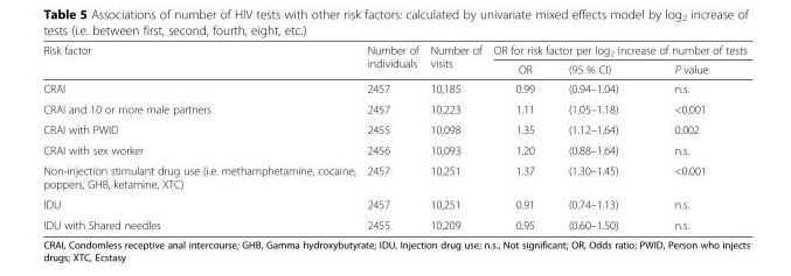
<table><thead><tr><td rowspan="2">Risk factor</td><td rowspan="2">Number of individuals</td><td rowspan="2">Number of visits</td><td colspan="3">OR for risk factor per log<sub>2</sub> increase of number of tests</td></tr><tr><td>OR</td><td>(95 % CI)</td><td>P value</td></tr></thead><tbody><tr><td>CRAI</td><td>2457</td><td>10,185</td><td>0.99</td><td>(0.94–1.04)</td><td>n.s.</td></tr><tr><td>CRAI and 10 or more male partners</td><td>2457</td><td>10,223</td><td>1.11</td><td>(1.05–1.18)</td><td>&lt;0.001</td></tr><tr><td>CRAI with PWID</td><td>2455</td><td>10,098</td><td>1.35</td><td>(1.12–1.64)</td><td>0.002</td></tr><tr><td>CRAI with sex worker</td><td>2456</td><td>10,093</td><td>1.20</td><td>(0.88–1.64)</td><td>n.s.</td></tr><tr><td>Non-injection stimulant drug use (i.e. methamphetamine, cocaine, poppers, GHB, ketamine, XTC)</td><td>2457</td><td>10,251</td><td>1.37</td><td>(1.30–1.45)</td><td>&lt;0.001</td></tr><tr><td>IDU</td><td>2457</td><td>10,251</td><td>0.91</td><td>(0.74–1.13)</td><td>n.s.</td></tr><tr><td>IDU with Shared needles</td><td>2455</td><td>10,209</td><td>0.95</td><td>(0.60–1.50)</td><td>n.s.</td></tr></tbody></table>